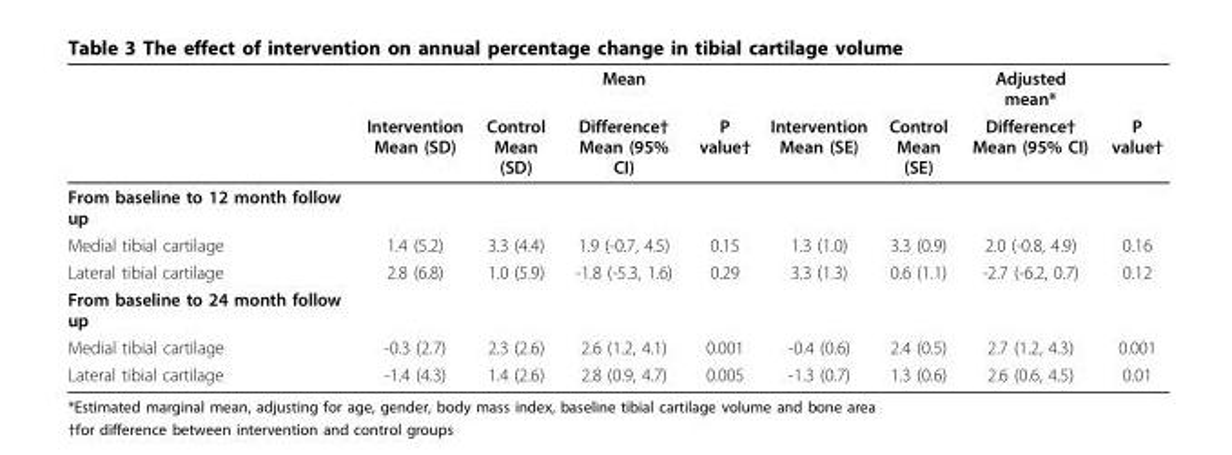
<table><thead><tr><td rowspan="2"></td><td rowspan="2">Intervention Mean (SD)</td><td rowspan="2">Control Mean (SD)</td><td rowspan="2">Mean Difference† Mean (95% CI)</td><td rowspan="2">P value†</td><td rowspan="2">Intervention Mean (SE)</td><td rowspan="2">Control Mean (SE)</td><td rowspan="2">Adjusted mean* Difference† Mean (95% CI)</td><td rowspan="2">P value†</td></tr><tr></tr></thead><tbody><tr><td colspan="9">From baseline to 12 month follow up</td></tr><tr><td>Medial tibial cartilage</td><td>1.4 (5.2)</td><td>3.3 (4.4)</td><td>1.9 (-0.7, 4.5)</td><td>0.15</td><td>1.3 (1.0)</td><td>3.3 (0.9)</td><td>2.0 (-0.8, 4.9)</td><td>0.16</td></tr><tr><td>Lateral tibial cartilage</td><td>2.8 (6.8)</td><td>1.0 (5.9)</td><td>-1.8 (-5.3, 1.6)</td><td>0.29</td><td>3.3 (1.3)</td><td>0.6 (1.1)</td><td>-2.7 (-6.2, 0.7)</td><td>0.12</td></tr><tr><td colspan="9">From baseline to 24 month follow up</td></tr><tr><td>Medial tibial cartilage</td><td>-0.3 (2.7)</td><td>2.3 (2.6)</td><td>2.6 (1.2, 4.1)</td><td>0.001</td><td>-0.4 (0.6)</td><td>2.4 (0.5)</td><td>2.7 (1.2, 4.3)</td><td>0.001</td></tr><tr><td>Lateral tibial cartilage</td><td>-1.4 (4.3)</td><td>1.4 (2.6)</td><td>2.8 (0.9, 4.7)</td><td>0.005</td><td>-1.3 (0.7)</td><td>1.3 (0.6)</td><td>2.6 (0.6, 4.5)</td><td>0.01</td></tr></tbody></table>